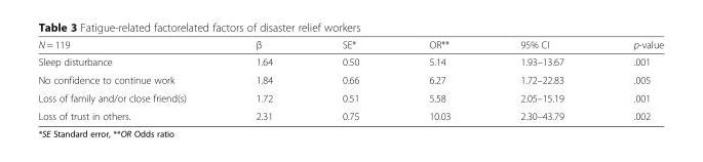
<table><thead><tr><td>N = 119</td><td>β</td><td>SE*</td><td>OR**</td><td>95% CI</td><td>p-value</td></tr></thead><tbody><tr><td>Sleep disturbance</td><td>1.64</td><td>0.50</td><td>5.14</td><td>1.93–13.67</td><td>.001</td></tr><tr><td>No confidence to continue work</td><td>1.84</td><td>0.66</td><td>6.27</td><td>1.72–22.83</td><td>.005</td></tr><tr><td>Loss of family and/or close friend(s)</td><td>1.72</td><td>0.51</td><td>5.58</td><td>2.05–15.19</td><td>.001</td></tr><tr><td>Loss of trust in others.</td><td>2.31</td><td>0.75</td><td>10.03</td><td>2.30–43.79</td><td>.002</td></tr></tbody></table>